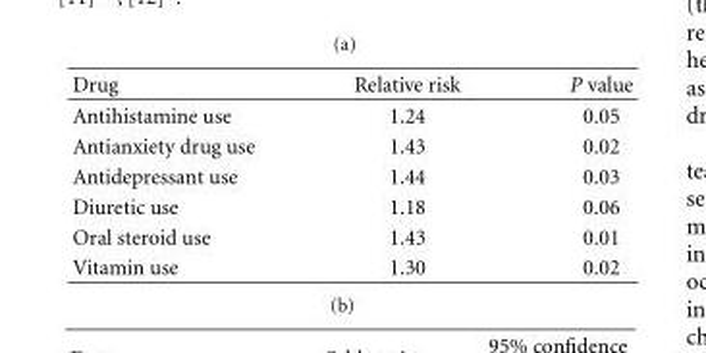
<table><thead><tr><td>Drug</td><td>Relative risk</td><td>P value</td></tr></thead><tbody><tr><td>Antihistamine use</td><td>1.24</td><td>0.05</td></tr><tr><td>Antianxiety drug use</td><td>1.43</td><td>0.02</td></tr><tr><td>Antidepressant use</td><td>1.44</td><td>0.03</td></tr><tr><td>Diuretic use</td><td>1.18</td><td>0.06</td></tr><tr><td>Oral steroid use</td><td>1.43</td><td>0.01</td></tr><tr><td>Vitamin use</td><td>1.30</td><td>0.02</td></tr></tbody></table>